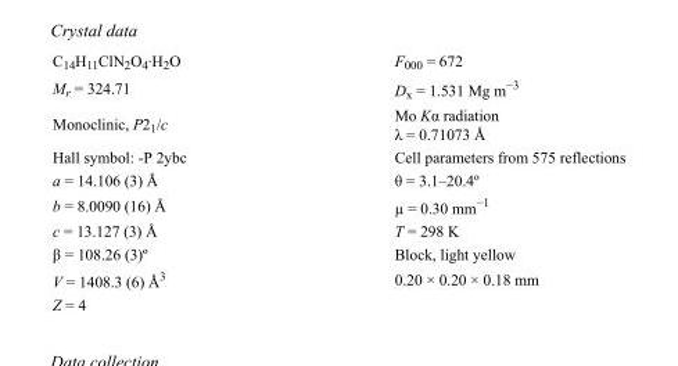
<table><tbody><tr><td>C<sub>14</sub>H<sub>11</sub>ClN<sub>2</sub>O<sub>4</sub>·H<sub>2</sub>O</td><td>F000 = 672</td></tr><tr><td>M<sub>r</sub> = 324.71</td><td>D<sub>x</sub> = 1.531 Mg m<sup>−3</sup></td></tr><tr><td>Monoclinic, P2<sub>1</sub>/c</td><td>Mo Kα radiation λ = 0.71073 Å</td></tr><tr><td>Hall symbol: -P 2ybc</td><td>Cell parameters from 575 reflections</td></tr><tr><td>a = 14.106 (3) Å</td><td>θ = 3.1–20.4º</td></tr><tr><td>b = 8.0090 (16) Å</td><td>µ = 0.30 mm<sup>−1</sup></td></tr><tr><td>c = 13.127 (3) Å</td><td>T = 298 K</td></tr><tr><td>β = 108.26 (3)º</td><td>Block, light yellow</td></tr><tr><td>V = 1408.3 (6) Å<sup>3</sup></td><td>0.20 × 0.20 × 0.18 mm</td></tr><tr><td>Z = 4</td><td></td></tr></tbody></table>